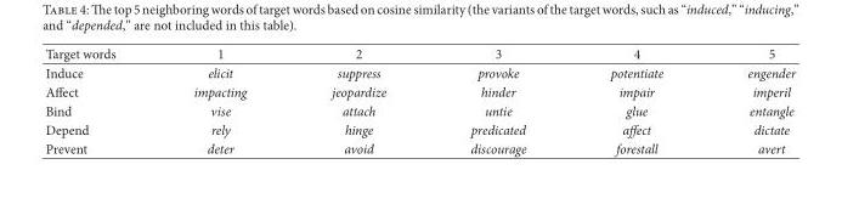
<table><thead><tr><td>Target words</td><td>1</td><td>2</td><td>3</td><td>4</td><td>5</td></tr></thead><tbody><tr><td>Induce</td><td>elicit</td><td>suppress</td><td>provoke</td><td>potentiate</td><td>engender</td></tr><tr><td>Affect</td><td>impacting</td><td>jeopardize</td><td>hinder</td><td>impair</td><td>imperil</td></tr><tr><td>Bind</td><td>vise</td><td>attach</td><td>untie</td><td>glue</td><td>entangle</td></tr><tr><td>Depend</td><td>rely</td><td>hinge</td><td>predicated</td><td>affect</td><td>dictate</td></tr><tr><td>Prevent</td><td>deter</td><td>avoid</td><td>discourage</td><td>forestall</td><td>avert</td></tr></tbody></table>